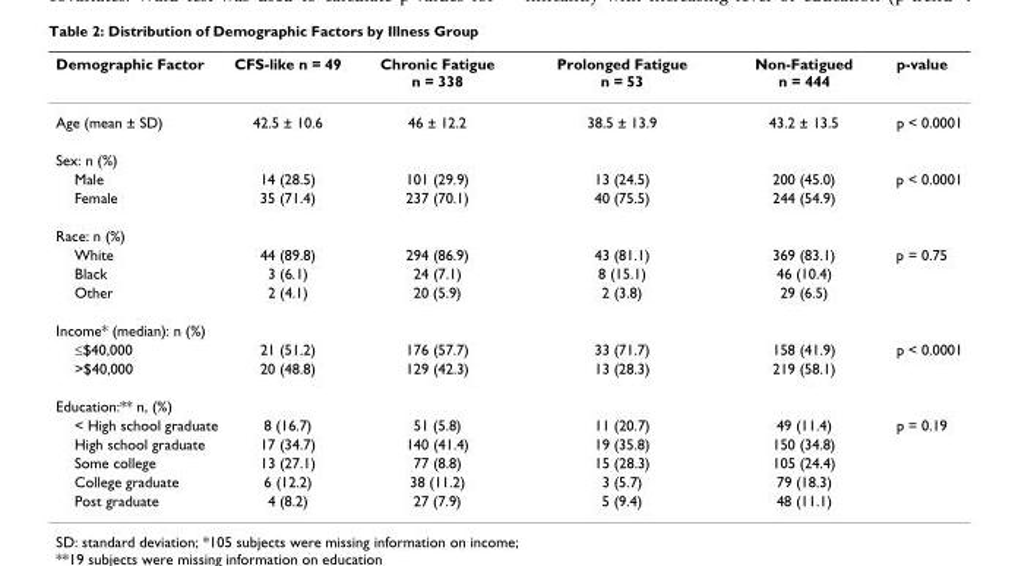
<table><thead><tr><td>Demographic Factor</td><td>CFS-like n = 49</td><td>Chronic Fatigue n = 338</td><td>Prolonged Fatigue n = 53</td><td>Non-Fatigued n = 444</td><td>p-value</td></tr></thead><tbody><tr><td>Age (mean ± SD)</td><td>42.5 ± 10.6</td><td>46 ± 12.2</td><td>38.5 ± 13.9</td><td>43.2 ± 13.5</td><td>p &lt; 0.0001</td></tr><tr><td colspan="6">Sex: n (%)</td></tr><tr><td>Male</td><td>14 (28.5)</td><td>101 (29.9)</td><td>13 (24.5)</td><td>200 (45.0)</td><td>p &lt; 0.0001</td></tr><tr><td>Female</td><td>35 (71.4)</td><td>237 (70.1)</td><td>40 (75.5)</td><td>244 (54.9)</td><td></td></tr><tr><td colspan="6">Race: n (%)</td></tr><tr><td>White</td><td>44 (89.8)</td><td>294 (86.9)</td><td>43 (81.1)</td><td>369 (83.1)</td><td>p = 0.75</td></tr><tr><td>Black</td><td>3 (6.1)</td><td>24 (7.1)</td><td>8 (15.1)</td><td>46 (10.4)</td><td></td></tr><tr><td>Other</td><td>2 (4.1)</td><td>20 (5.9)</td><td>2 (3.8)</td><td>29 (6.5)</td><td></td></tr><tr><td colspan="6">Income* (median): n (%)</td></tr><tr><td>≤$40,000</td><td>21 (51.2)</td><td>176 (57.7)</td><td>33 (71.7)</td><td>158 (41.9)</td><td>p &lt; 0.0001</td></tr><tr><td>&gt;$40,000</td><td>20 (48.8)</td><td>129 (42.3)</td><td>13 (28.3)</td><td>219 (58.1)</td><td></td></tr><tr><td colspan="6">Education:** n, (%)</td></tr><tr><td>&lt; High school graduate</td><td>8 (16.7)</td><td>51 (5.8)</td><td>11 (20.7)</td><td>49 (11.4)</td><td>p = 0.19</td></tr><tr><td>High school graduate</td><td>17 (34.7)</td><td>140 (41.4)</td><td>19 (35.8)</td><td>150 (34.8)</td><td></td></tr><tr><td>Some college</td><td>13 (27.1)</td><td>77 (8.8)</td><td>15 (28.3)</td><td>105 (24.4)</td><td></td></tr><tr><td>College graduate</td><td>6 (12.2)</td><td>38 (11.2)</td><td>3 (5.7)</td><td>79 (18.3)</td><td></td></tr><tr><td>Post graduate</td><td>4 (8.2)</td><td>27 (7.9)</td><td>5 (9.4)</td><td>48 (11.1)</td><td></td></tr></tbody></table>